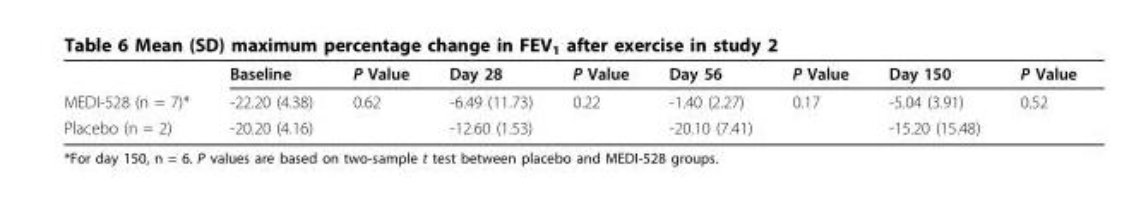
<table><thead><tr><td></td><td>Baseline</td><td>P Value</td><td>Day 28</td><td>P Value</td><td>Day 56</td><td>P Value</td><td>Day 150</td><td>P Value</td></tr></thead><tbody><tr><td>MEDI-528 (n = 7)*</td><td>-22.20 (4.38)</td><td>0.62</td><td>-6.49 (11.73)</td><td>0.22</td><td>-1.40 (2.27)</td><td>0.17</td><td>-5.04 (3.91)</td><td>0.52</td></tr><tr><td>Placebo (n = 2)</td><td>-20.20 (4.16)</td><td></td><td>-12.60 (1.53)</td><td></td><td>-20.10 (7.41)</td><td></td><td>-15.20 (15.48)</td><td></td></tr></tbody></table>